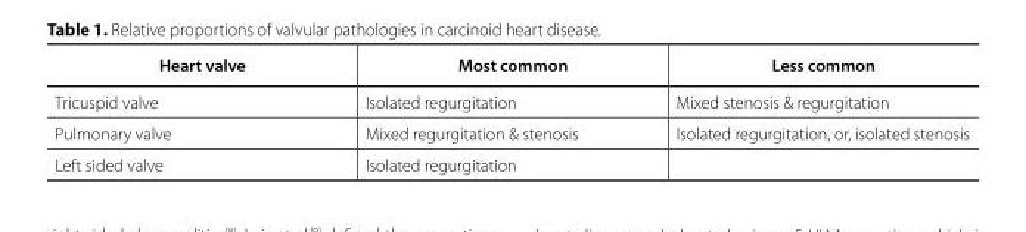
<table><thead><tr><td>Heart valve</td><td>Most common</td><td>Less common</td></tr></thead><tbody><tr><td>Tricuspid valve</td><td>Isolated regurgitation</td><td>Mixed stenosis &amp; regurgitation</td></tr><tr><td>Pulmonary valve</td><td>Mixed regurgitation &amp; stenosis</td><td>Isolated regurgitation, or, isolated stenosis</td></tr><tr><td>Left sided valve</td><td>Isolated regurgitation</td><td></td></tr></tbody></table>